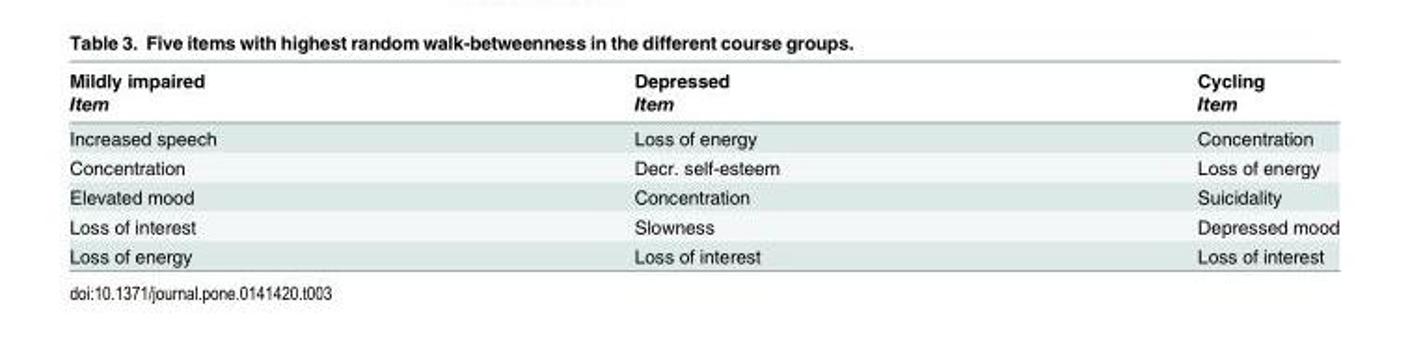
<table><thead><tr><td rowspan="2">Mildly impaired Item</td><td rowspan="2">Depressed Item</td><td rowspan="2">Cycling Item</td></tr><tr></tr></thead><tbody><tr><td>Increased speech</td><td>Loss of energy</td><td>Concentration</td></tr><tr><td>Concentration</td><td>Decr. self-esteem</td><td>Loss of energy</td></tr><tr><td>Elevated mood</td><td>Concentration</td><td>Suicidality</td></tr><tr><td>Loss of interest</td><td>Slowness</td><td>Depressed mood</td></tr><tr><td>Loss of energy</td><td>Loss of interest</td><td>Loss of interest</td></tr></tbody></table>